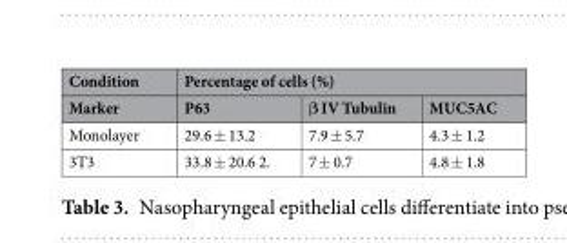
<table><thead><tr><td rowspan="2">Condition Marker</td><td colspan="3">Percentage of cells (%)</td></tr><tr><td>P63</td><td>β IV Tubulin</td><td>MUC5AC</td></tr></thead><tbody><tr><td>Monolayer</td><td>29.6 ± 13.2</td><td>7.9 ± 5.7</td><td>4.3 ± 1.2</td></tr><tr><td>3T3</td><td>33.8 ± 20.6 2.</td><td>7 ± 0.7</td><td>4.8 ± 1.8</td></tr></tbody></table>